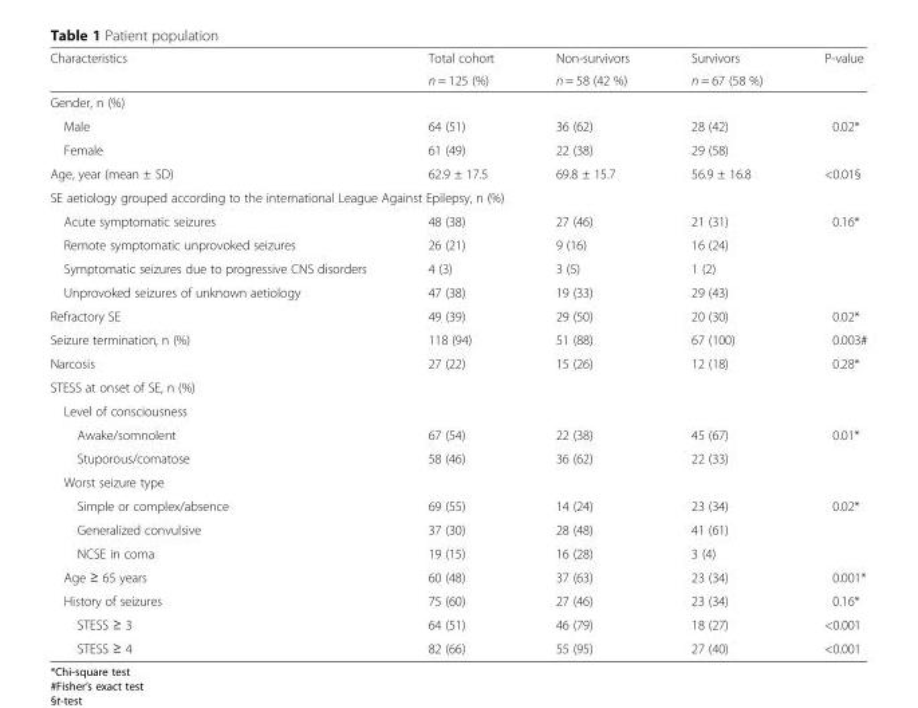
<table><thead><tr><td rowspan="2">Characteristics</td><td rowspan="2">Total cohort n = 125 (%)</td><td rowspan="2">Non-survivors n = 58 (42 %)</td><td rowspan="2">Survivors n = 67 (58 %)</td><td rowspan="2">P-value</td></tr><tr></tr></thead><tbody><tr><td colspan="5">Gender, n (%)</td></tr><tr><td>Male</td><td>64 (51)</td><td>36 (62)</td><td>28 (42)</td><td>0.02*</td></tr><tr><td>Female</td><td>61 (49)</td><td>22 (38)</td><td>29 (58)</td><td></td></tr><tr><td>Age, year (mean ± SD)</td><td>62.9 ± 17.5</td><td>69.8 ± 15.7</td><td>56.9 ± 16.8</td><td>&lt;0.01§</td></tr><tr><td colspan="5">SE aetiology grouped according to the international League Against Epilepsy, n (%)</td></tr><tr><td>Acute symptomatic seizures</td><td>48 (38)</td><td>27 (46)</td><td>21 (31)</td><td>0.16*</td></tr><tr><td>Remote symptomatic unprovoked seizures</td><td>26 (21)</td><td>9 (16)</td><td>16 (24)</td><td></td></tr><tr><td>Symptomatic seizures due to progressive CNS disorders</td><td>4 (3)</td><td>3 (5)</td><td>1 (2)</td><td></td></tr><tr><td>Unprovoked seizures of unknown aetiology</td><td>47 (38)</td><td>19 (33)</td><td>29 (43)</td><td></td></tr><tr><td>Refractory SE</td><td>49 (39)</td><td>29 (50)</td><td>20 (30)</td><td>0.02*</td></tr><tr><td>Seizure termination, n (%)</td><td>118 (94)</td><td>51 (88)</td><td>67 (100)</td><td>0.003#</td></tr><tr><td>Narcosis</td><td>27 (22)</td><td>15 (26)</td><td>12 (18)</td><td>0.28*</td></tr><tr><td colspan="5">STESS at onset of SE, n (%)</td></tr><tr><td colspan="5">Level of consciousness</td></tr><tr><td>Awake/somnolent</td><td>67 (54)</td><td>22 (38)</td><td>45 (67)</td><td>0.01*</td></tr><tr><td>Stuporous/comatose</td><td>58 (46)</td><td>36 (62)</td><td>22 (33)</td><td></td></tr><tr><td colspan="5">Worst seizure type</td></tr><tr><td>Simple or complex/absence</td><td>69 (55)</td><td>14 (24)</td><td>23 (34)</td><td>0.02*</td></tr><tr><td>Generalized convulsive</td><td>37 (30)</td><td>28 (48)</td><td>41 (61)</td><td></td></tr><tr><td>NCSE in coma</td><td>19 (15)</td><td>16 (28)</td><td>3 (4)</td><td></td></tr><tr><td>Age ≥ 65 years</td><td>60 (48)</td><td>37 (63)</td><td>23 (34)</td><td>0.001*</td></tr><tr><td>History of seizures</td><td>75 (60)</td><td>27 (46)</td><td>23 (34)</td><td>0.16*</td></tr><tr><td>STESS ≥ 3</td><td>64 (51)</td><td>46 (79)</td><td>18 (27)</td><td>&lt;0.001</td></tr><tr><td>STESS ≥ 4</td><td>82 (66)</td><td>55 (95)</td><td>27 (40)</td><td>&lt;0.001</td></tr></tbody></table>